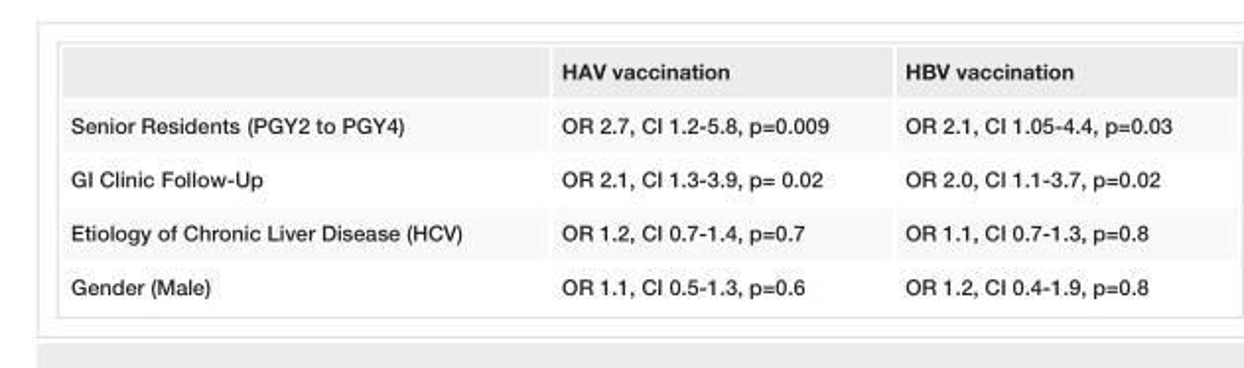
<table><thead><tr><td></td><td>HAV vaccination</td><td>HBV vaccination</td></tr></thead><tbody><tr><td>Senior Residents (PGY2 to PGY4)</td><td>OR 2.7, CI 1.2-5.8, p=0.009</td><td>OR 2.1, CI 1.05-4.4, p=0.03</td></tr><tr><td>GI Clinic Follow-Up</td><td>OR 2.1, CI 1.3-3.9, p= 0.02</td><td>OR 2.0, CI 1.1-3.7, p=0.02</td></tr><tr><td>Etiology of Chronic Liver Disease (HCV)</td><td>OR 1.2, CI 0.7-1.4, p=0.7</td><td>OR 1.1, CI 0.7-1.3, p=0.8</td></tr><tr><td>Gender (Male)</td><td>OR 1.1, CI 0.5-1.3, p=0.6</td><td>OR 1.2, CI 0.4-1.9, p=0.8</td></tr></tbody></table>